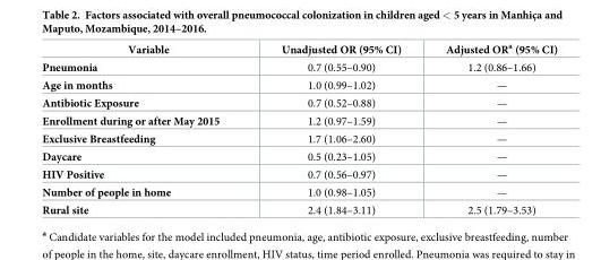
<table><thead><tr><td>Variable</td><td>Unadjusted OR (95% CI)</td><td>Adjusted OR<sup>a</sup> (95% CI)</td></tr></thead><tbody><tr><td>Pneumonia</td><td>0.7 (0.55–0.90)</td><td>1.2 (0.86–1.66)</td></tr><tr><td>Age in months</td><td>1.0 (0.99–1.02)</td><td>—</td></tr><tr><td>Antibiotic Exposure</td><td>0.7 (0.52–0.88)</td><td>—</td></tr><tr><td>Enrollment during or after May 2015</td><td>1.2 (0.97–1.59)</td><td>—</td></tr><tr><td>Exclusive Breastfeeding</td><td>1.7 (1.06–2.60)</td><td>—</td></tr><tr><td>Daycare</td><td>0.5 (0.23–1.05)</td><td>—</td></tr><tr><td>HIV Positive</td><td>0.7 (0.56–0.97)</td><td>—</td></tr><tr><td>Number of people in home</td><td>1.0 (0.98–1.05)</td><td>—</td></tr><tr><td>Rural site</td><td>2.4 (1.84–3.11)</td><td>2.5 (1.79–3.53)</td></tr></tbody></table>